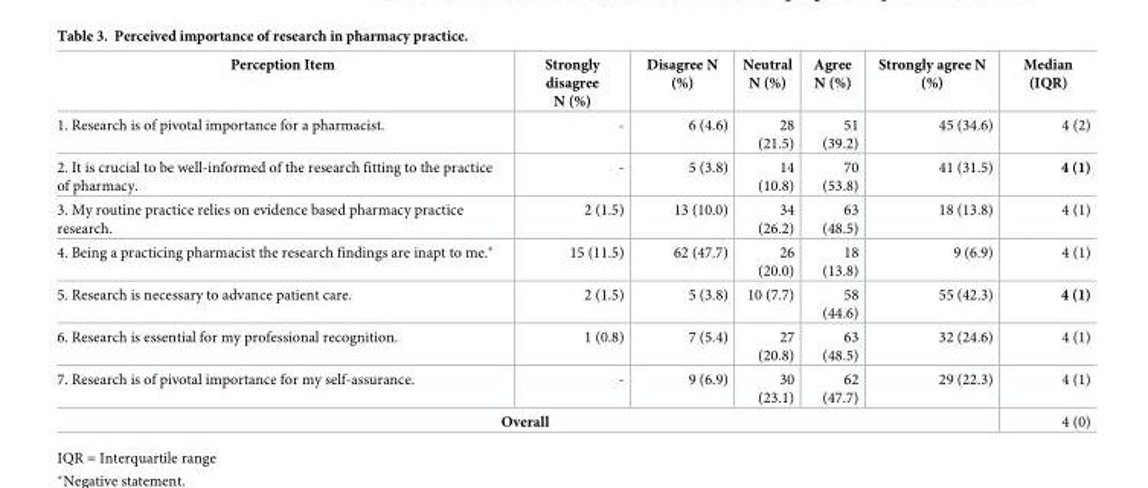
<table><thead><tr><td>Perception Item</td><td>Strongly disagree N (%)</td><td>Disagree N (%)</td><td>Neutral N (%)</td><td>Agree N (%)</td><td>Strongly agree N (%)</td><td>Median (IQR)</td></tr></thead><tbody><tr><td>1. Research is of pivotal importance for a pharmacist.</td><td>-</td><td>6 (4.6)</td><td>28 (21.5)</td><td>51 (39.2)</td><td>45 (34.6)</td><td>4 (2)</td></tr><tr><td>2. It is crucial to be well-informed of the research fitting to the practice of pharmacy.</td><td>-</td><td>5 (3.8)</td><td>14 (10.8)</td><td>70 (53.8)</td><td>41 (31.5)</td><td>4 (1)</td></tr><tr><td>3. My routine practice relies on evidence based pharmacy practice research.</td><td>2 (1.5)</td><td>13 (10.0)</td><td>34 (26.2)</td><td>63 (48.5)</td><td>18 (13.8)</td><td>4 (1)</td></tr><tr><td>4. Being a practicing pharmacist the research findings are inapt to me.*</td><td>15 (11.5)</td><td>62 (47.7)</td><td>26 (20.0)</td><td>18 (13.8)</td><td>9 (6.9)</td><td>4 (1)</td></tr><tr><td>5. Research is necessary to advance patient care.</td><td>2 (1.5)</td><td>5 (3.8)</td><td>10 (7.7)</td><td>58 (44.6)</td><td>55 (42.3)</td><td>4 (1)</td></tr><tr><td>6. Research is essential for my professional recognition.</td><td>1 (0.8)</td><td>7 (5.4)</td><td>27 (20.8)</td><td>63 (48.5)</td><td>32 (24.6)</td><td>4 (1)</td></tr><tr><td>7. Research is of pivotal importance for my self-assurance.</td><td>-</td><td>9 (6.9)</td><td>30 (23.1)</td><td>62 (47.7)</td><td>29 (22.3)</td><td>4 (1)</td></tr><tr><td colspan="6">Overall</td><td>4 (0)</td></tr></tbody></table>